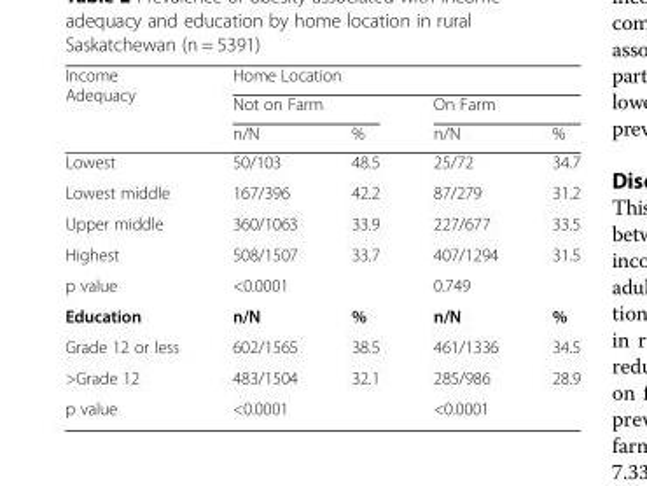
<table><thead><tr><td rowspan="3">Income Adequacy</td><td colspan="4">Home Location</td></tr><tr><td colspan="2">Not on Farm</td><td colspan="2">On Farm</td></tr><tr><td>n/N</td><td>%</td><td>n/N</td><td>%</td></tr></thead><tbody><tr><td>Lowest</td><td>50/103</td><td>48.5</td><td>25/72</td><td>34.7</td></tr><tr><td>Lowest middle</td><td>167/396</td><td>42.2</td><td>87/279</td><td>31.2</td></tr><tr><td>Upper middle</td><td>360/1063</td><td>33.9</td><td>227/677</td><td>33.5</td></tr><tr><td>Highest</td><td>508/1507</td><td>33.7</td><td>407/1294</td><td>31.5</td></tr><tr><td>p value</td><td colspan="2">&lt;0.0001</td><td colspan="2">0.749</td></tr><tr><td>Education</td><td>n/N</td><td>%</td><td>n/N</td><td>%</td></tr><tr><td>Grade 12 or less</td><td>602/1565</td><td>38.5</td><td>461/1336</td><td>34.5</td></tr><tr><td>&gt;Grade 12</td><td>483/1504</td><td>32.1</td><td>285/986</td><td>28.9</td></tr><tr><td>p value</td><td colspan="2">&lt;0.0001</td><td colspan="2">&lt;0.0001</td></tr></tbody></table>